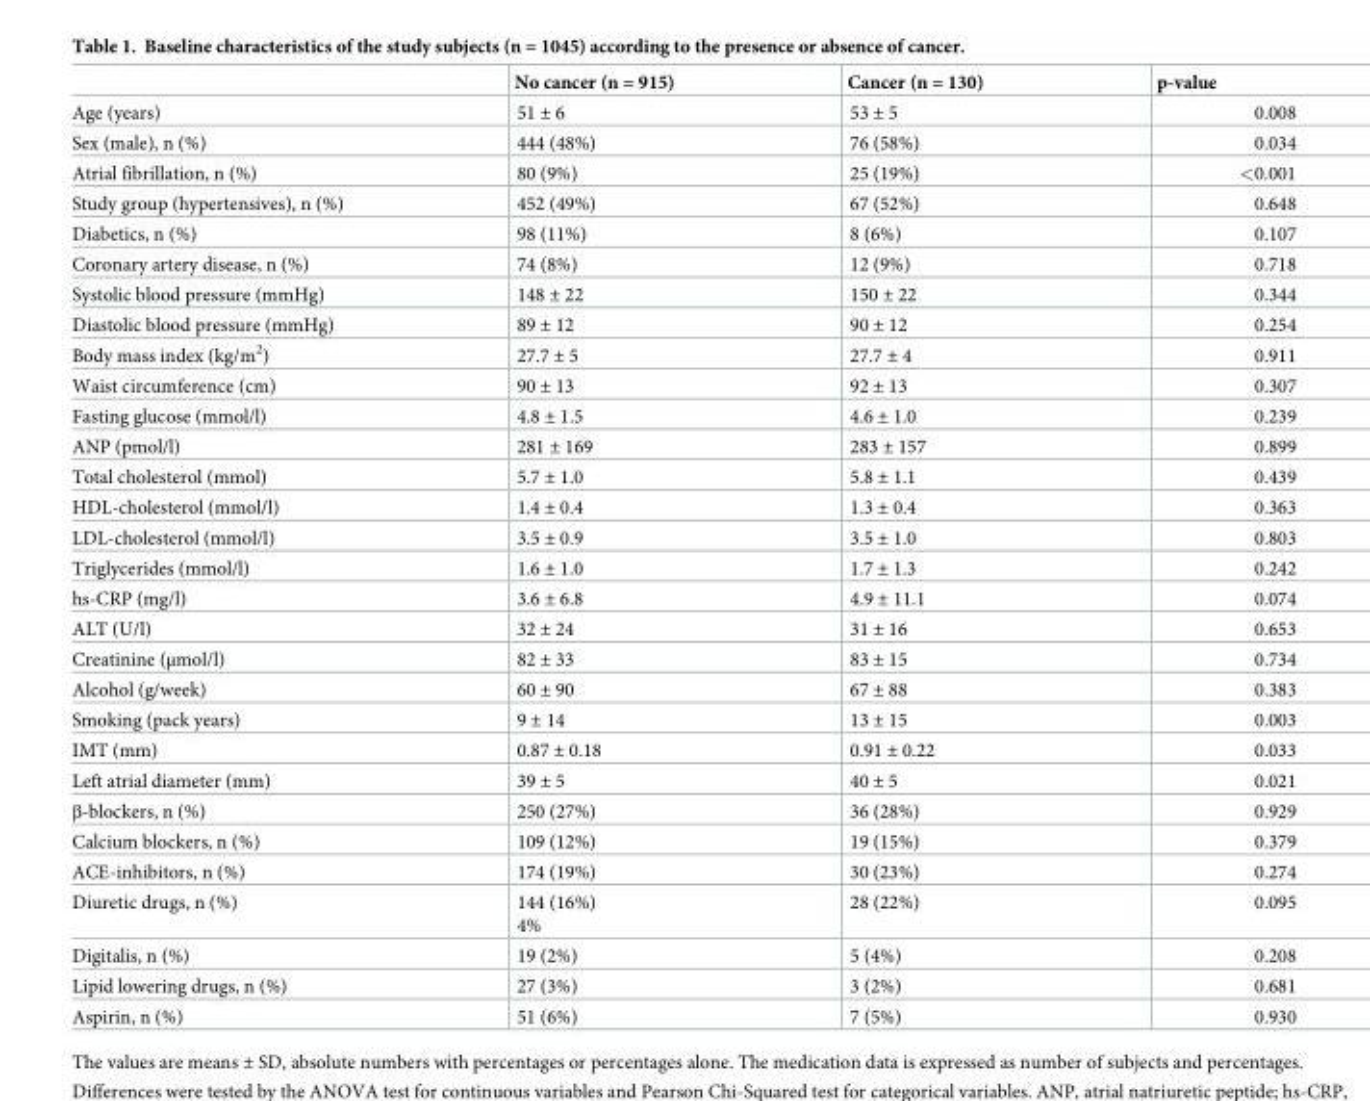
<table><thead><tr><td></td><td>No cancer (n = 915)</td><td>Cancer (n = 130)</td><td>p-value</td></tr></thead><tbody><tr><td>Age (years)</td><td>51 ± 6</td><td>53 ± 5</td><td>0.008</td></tr><tr><td>Sex (male), n (%)</td><td>444 (48%)</td><td>76 (58%)</td><td>0.034</td></tr><tr><td>Atrial fibrillation, n (%)</td><td>80 (9%)</td><td>25 (19%)</td><td>&lt;0.001</td></tr><tr><td>Study group (hypertensives), n (%)</td><td>452 (49%)</td><td>67 (52%)</td><td>0.648</td></tr><tr><td>Diabetics, n (%)</td><td>98 (11%)</td><td>8 (6%)</td><td>0.107</td></tr><tr><td>Coronary artery disease, n (%)</td><td>74 (8%)</td><td>12 (9%)</td><td>0.718</td></tr><tr><td>Systolic blood pressure (mmHg)</td><td>148 ± 22</td><td>150 ± 22</td><td>0.344</td></tr><tr><td>Diastolic blood pressure (mmHg)</td><td>89 ± 12</td><td>90 ± 12</td><td>0.254</td></tr><tr><td>Body mass index (kg/m<sup>2</sup>)</td><td>27.7 ± 5</td><td>27.7 ± 4</td><td>0.911</td></tr><tr><td>Waist circumference (cm)</td><td>90 ± 13</td><td>92 ± 13</td><td>0.307</td></tr><tr><td>Fasting glucose (mmol/l)</td><td>4.8 ± 1.5</td><td>4.6 ± 1.0</td><td>0.239</td></tr><tr><td>ANP (pmol/l)</td><td>281 ± 169</td><td>283 ± 157</td><td>0.899</td></tr><tr><td>Total cholesterol (mmol)</td><td>5.7 ± 1.0</td><td>5.8 ± 1.1</td><td>0.439</td></tr><tr><td>HDL-cholesterol (mmol/l)</td><td>1.4 ± 0.4</td><td>1.3 ± 0.4</td><td>0.363</td></tr><tr><td>LDL-cholesterol (mmol/l)</td><td>3.5 ± 0.9</td><td>3.5 ± 1.0</td><td>0.803</td></tr><tr><td>Triglycerides (mmol/l)</td><td>1.6 ± 1.0</td><td>1.7 ± 1.3</td><td>0.242</td></tr><tr><td>hs-CRP (mg/l)</td><td>3.6 ± 6.8</td><td>4.9 ± 11.1</td><td>0.074</td></tr><tr><td>ALT (U/l)</td><td>32 ± 24</td><td>31 ± 16</td><td>0.653</td></tr><tr><td>Creatinine (μmol/l)</td><td>82 ± 33</td><td>83 ± 15</td><td>0.734</td></tr><tr><td>Alcohol (g/week)</td><td>60 ± 90</td><td>67 ± 88</td><td>0.383</td></tr><tr><td>Smoking (pack years)</td><td>9 ± 14</td><td>13 ± 15</td><td>0.003</td></tr><tr><td>IMT (mm)</td><td>0.87 ± 0.18</td><td>0.91 ± 0.22</td><td>0.033</td></tr><tr><td>Left atrial diameter (mm)</td><td>39 ± 5</td><td>40 ± 5</td><td>0.021</td></tr><tr><td>β-blockers, n (%)</td><td>250 (27%)</td><td>36 (28%)</td><td>0.929</td></tr><tr><td>Calcium blockers, n (%)</td><td>109 (12%)</td><td>19 (15%)</td><td>0.379</td></tr><tr><td>ACE-inhibitors, n (%)</td><td>174 (19%)</td><td>30 (23%)</td><td>0.274</td></tr><tr><td>Diuretic drugs, n (%)</td><td>144 (16%) 4%</td><td>28 (22%)</td><td>0.095</td></tr><tr><td>Digitalis, n (%)</td><td>19 (2%)</td><td>5 (4%)</td><td>0.208</td></tr><tr><td>Lipid lowering drugs, n (%)</td><td>27 (3%)</td><td>3 (2%)</td><td>0.681</td></tr><tr><td>Aspirin, n (%)</td><td>51 (6%)</td><td>7 (5%)</td><td>0.930</td></tr></tbody></table>